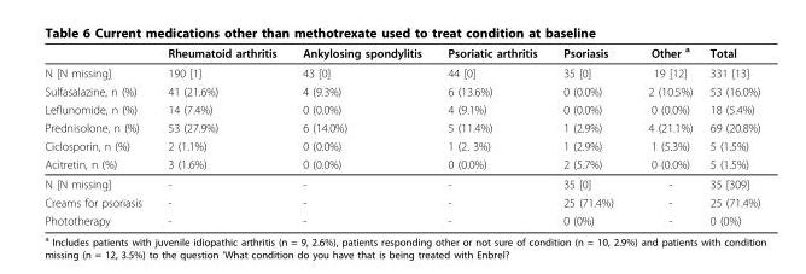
<table><thead><tr><td></td><td>Rheumatoid arthritis</td><td>Ankylosing spondylitis</td><td>Psoriatic arthritis</td><td>Psoriasis</td><td>Other <sup>a</sup></td><td>Total</td></tr></thead><tbody><tr><td>N [N missing]</td><td>190 [1]</td><td>43 [0]</td><td>44 [0]</td><td>35 [0]</td><td>19 [12]</td><td>331 [13]</td></tr><tr><td>Sulfasalazine, n (%)</td><td>41 (21.6%)</td><td>4 (9.3%)</td><td>6 (13.6%)</td><td>0 (0.0%)</td><td>2 (10.5%)</td><td>53 (16.0%)</td></tr><tr><td>Leflunomide, n (%)</td><td>14 (7.4%)</td><td>0 (0.0%)</td><td>4 (9.1%)</td><td>0 (0.0%)</td><td>0 (0.0%)</td><td>18 (5.4%)</td></tr><tr><td>Prednisolone, n (%)</td><td>53 (27.9%)</td><td>6 (14.0%)</td><td>5 (11.4%)</td><td>1 (2.9%)</td><td>4 (21.1%)</td><td>69 (20.8%)</td></tr><tr><td>Ciclosporin, n (%)</td><td>2 (1.1%)</td><td>0 (0.0%)</td><td>1 (2. 3%)</td><td>1 (2.9%)</td><td>1 (5.3%)</td><td>5 (1.5%)</td></tr><tr><td>Acitretin, n (%)</td><td>3 (1.6%)</td><td>0 (0.0%)</td><td>0 (0.0%)</td><td>2 (5.7%)</td><td>0 (0.0%)</td><td>5 (1.5%)</td></tr><tr><td>N [N missing]</td><td>-</td><td>-</td><td>-</td><td>35 [0]</td><td>-</td><td>35 [309]</td></tr><tr><td>Creams for psoriasis</td><td>-</td><td>-</td><td>-</td><td>25 (71.4%)</td><td>-</td><td>25 (71.4%)</td></tr><tr><td>Phototherapy</td><td>-</td><td>-</td><td>-</td><td>0 (0%)</td><td>-</td><td>0 (0%)</td></tr></tbody></table>